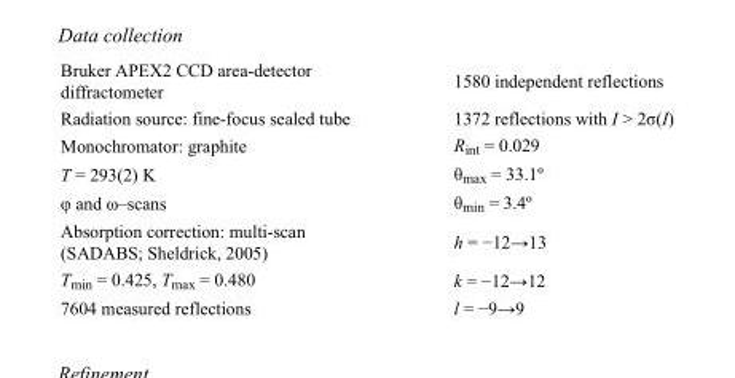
<table><tbody><tr><td>Bruker APEX2 CCD area-detector diffractometer</td><td>1580 independent reflections</td></tr><tr><td>Radiation source: fine-focus sealed tube</td><td>1372 reflections with I &gt; 2σ(I)</td></tr><tr><td>Monochromator: graphite</td><td>R<sub>int</sub> = 0.029</td></tr><tr><td>T = 293(2) K</td><td>θ<sub>max</sub> = 33.1º</td></tr><tr><td>φ and ω–scans</td><td>θ<sub>min</sub> = 3.4º</td></tr><tr><td>Absorption correction: multi-scan (SADABS; Sheldrick, 2005)</td><td>h = −12→13</td></tr><tr><td>T<sub>min</sub> = 0.425, T<sub>max</sub> = 0.480</td><td>k = −12→12</td></tr><tr><td>7604 measured reflections</td><td>l = −9→9</td></tr></tbody></table>